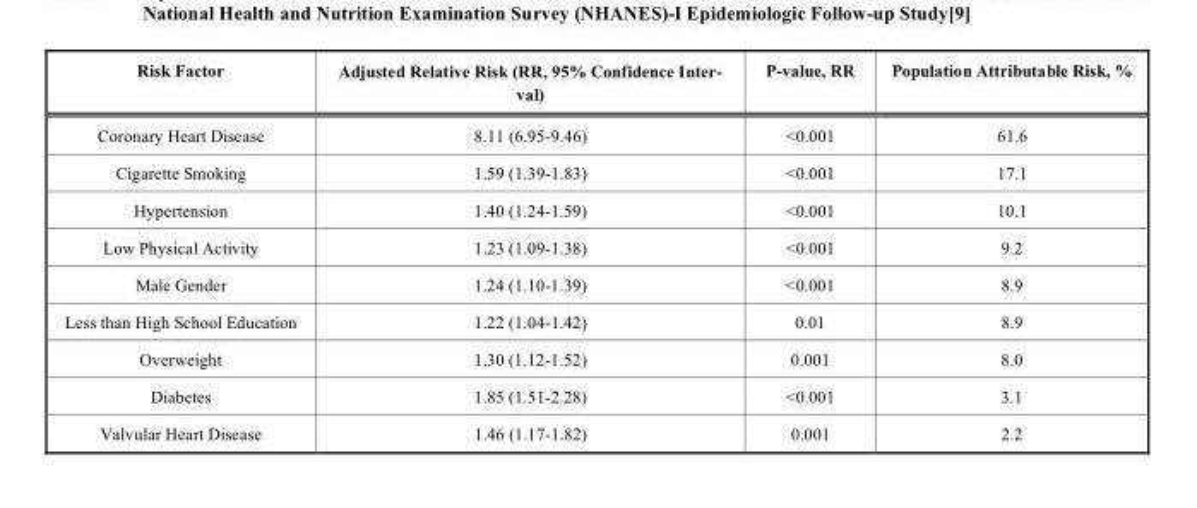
<table><thead><tr><td>Risk Factor</td><td>Adjusted Relative Risk (RR, 95% Confidence Inter- val)</td><td>P-value, RR</td><td>Population Attributable Risk, %</td></tr></thead><tbody><tr><td>Coronary Heart Disease</td><td>8.11 (6.95-9.46)</td><td>&lt;0.001</td><td>61.6</td></tr><tr><td>Cigarette Smoking</td><td>1.59 (1.39-1.83)</td><td>&lt;0.001</td><td>17.1</td></tr><tr><td>Hypertension</td><td>1.40 (1.24-1.59)</td><td>&lt;0.001</td><td>10.1</td></tr><tr><td>Low Physical Activity</td><td>1.23 (1.09-1.38)</td><td>&lt;0.001</td><td>9.2</td></tr><tr><td>Male Gender</td><td>1.24 (1.10-1.39)</td><td>&lt;0.001</td><td>8.9</td></tr><tr><td>Less than High School Education</td><td>1.22 (1.04-1.42)</td><td>0.01</td><td>8.9</td></tr><tr><td>Overweight</td><td>1.30 (1.12-1.52)</td><td>0.001</td><td>8.0</td></tr><tr><td>Diabetes</td><td>1.85 (1.51-2.28)</td><td>&lt;0.001</td><td>3.1</td></tr><tr><td>Valvular Heart Disease</td><td>1.46 (1.17-1.82)</td><td>0.001</td><td>2.2</td></tr></tbody></table>